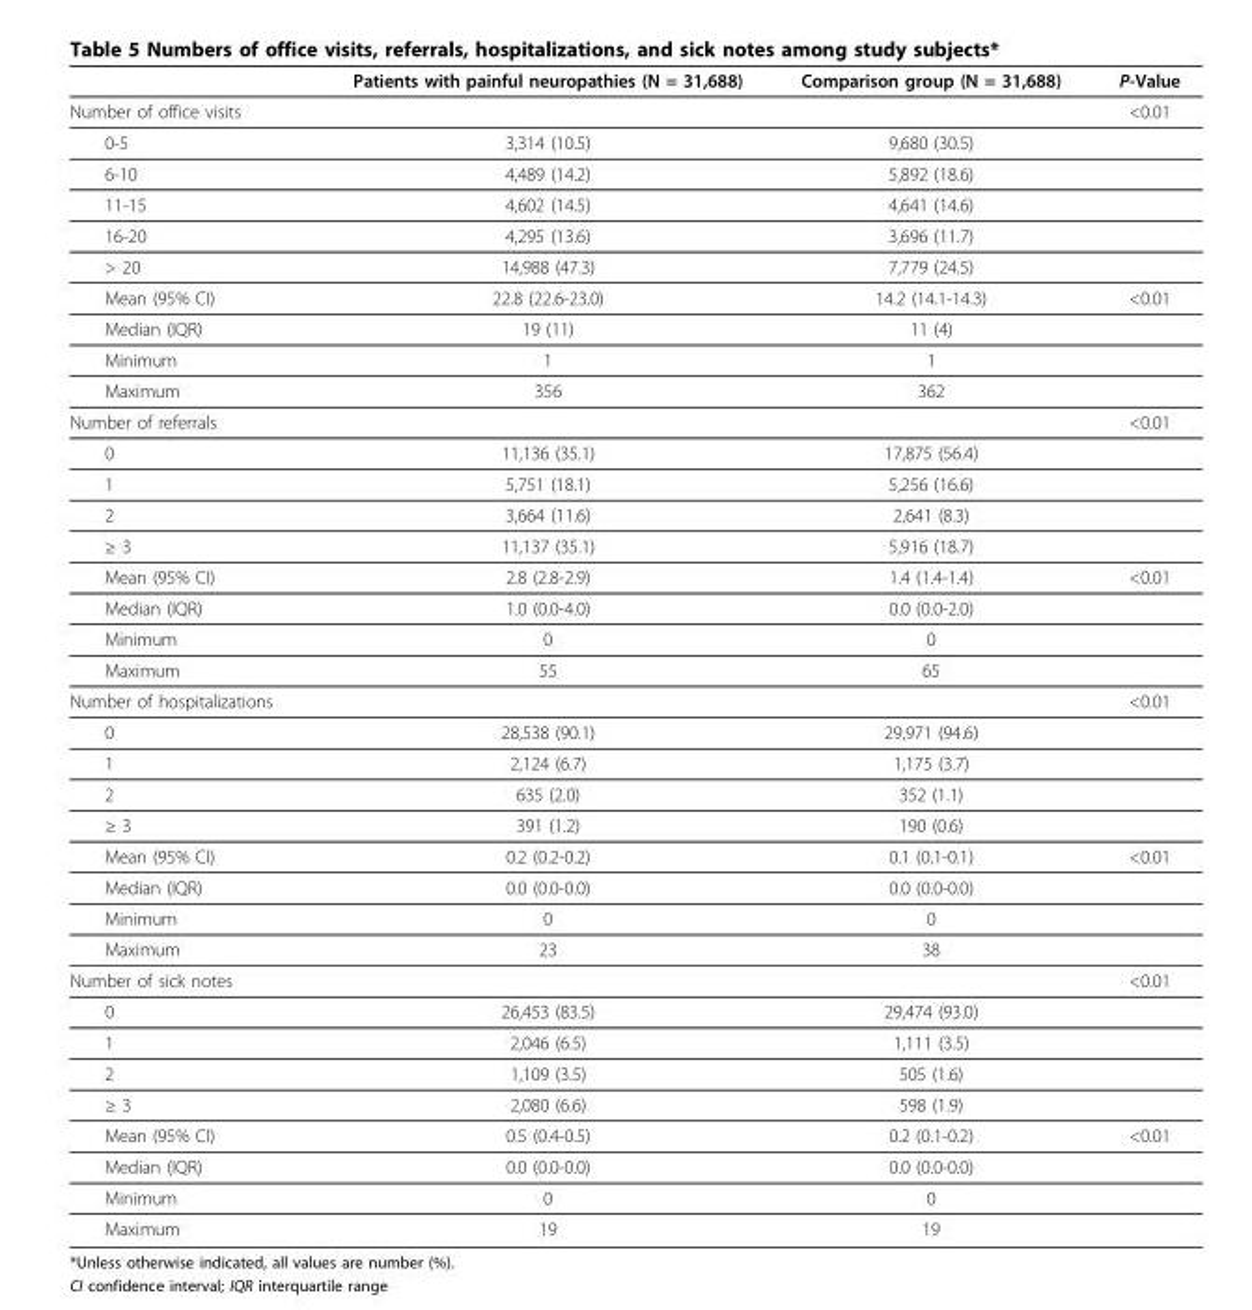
<table><thead><tr><td></td><td>Patients with painful neuropathies (N = 31,688)</td><td>Comparison group (N = 31,688)</td><td>P-Value</td></tr></thead><tbody><tr><td>Number of office visits</td><td></td><td></td><td>&lt;0.01</td></tr><tr><td>0-5</td><td>3,314 (10.5)</td><td>9,680 (30.5)</td><td></td></tr><tr><td>6-10</td><td>4,489 (14.2)</td><td>5,892 (18.6)</td><td></td></tr><tr><td>11-15</td><td>4,602 (14.5)</td><td>4,641 (14.6)</td><td></td></tr><tr><td>16-20</td><td>4,295 (13.6)</td><td>3,696 (11.7)</td><td></td></tr><tr><td>&gt; 20</td><td>14,988 (47.3)</td><td>7,779 (24.5)</td><td></td></tr><tr><td>Mean (95% CI)</td><td>22.8 (22.6-23.0)</td><td>14.2 (14.1-14.3)</td><td>&lt;0.01</td></tr><tr><td>Median (IQR)</td><td>19 (11)</td><td>11 (4)</td><td></td></tr><tr><td>Minimum</td><td>1</td><td>1</td><td></td></tr><tr><td>Maximum</td><td>356</td><td>362</td><td></td></tr><tr><td>Number of referrals</td><td></td><td></td><td>&lt;0.01</td></tr><tr><td>0</td><td>11,136 (35.1)</td><td>17,875 (56.4)</td><td></td></tr><tr><td>1</td><td>5,751 (18.1)</td><td>5,256 (16.6)</td><td></td></tr><tr><td>2</td><td>3,664 (11.6)</td><td>2,641 (8.3)</td><td></td></tr><tr><td>≥ 3</td><td>11,137 (35.1)</td><td>5,916 (18.7)</td><td></td></tr><tr><td>Mean (95% CI)</td><td>2.8 (2.8-2.9)</td><td>1.4 (1.4-1.4)</td><td>&lt;0.01</td></tr><tr><td>Median (IQR)</td><td>1.0 (0.0-4.0)</td><td>0.0 (0.0-2.0)</td><td></td></tr><tr><td>Minimum</td><td>0</td><td>0</td><td></td></tr><tr><td>Maximum</td><td>55</td><td>65</td><td></td></tr><tr><td>Number of hospitalizations</td><td></td><td></td><td>&lt;0.01</td></tr><tr><td>0</td><td>28,538 (90.1)</td><td>29,971 (94.6)</td><td></td></tr><tr><td>1</td><td>2,124 (6.7)</td><td>1,175 (3.7)</td><td></td></tr><tr><td>2</td><td>635 (2.0)</td><td>352 (1.1)</td><td></td></tr><tr><td>≥ 3</td><td>391 (1.2)</td><td>190 (0.6)</td><td></td></tr><tr><td>Mean (95% CI)</td><td>0.2 (0.2-0.2)</td><td>0.1 (0.1-0.1)</td><td>&lt;0.01</td></tr><tr><td>Median (IQR)</td><td>0.0 (0.0-0.0)</td><td>0.0 (0.0-0.0)</td><td></td></tr><tr><td>Minimum</td><td>0</td><td>0</td><td></td></tr><tr><td>Maximum</td><td>23</td><td>38</td><td></td></tr><tr><td>Number of sick notes</td><td></td><td></td><td>&lt;0.01</td></tr><tr><td>0</td><td>26,453 (83.5)</td><td>29,474 (93.0)</td><td></td></tr><tr><td>1</td><td>2,046 (6.5)</td><td>1,111 (3.5)</td><td></td></tr><tr><td>2</td><td>1,109 (3.5)</td><td>505 (1.6)</td><td></td></tr><tr><td>≥ 3</td><td>2,080 (6.6)</td><td>598 (1.9)</td><td></td></tr><tr><td>Mean (95% CI)</td><td>0.5 (0.4-0.5)</td><td>0.2 (0.1-0.2)</td><td>&lt;0.01</td></tr><tr><td>Median (IQR)</td><td>0.0 (0.0-0.0)</td><td>0.0 (0.0-0.0)</td><td></td></tr><tr><td>Minimum</td><td>0</td><td>0</td><td></td></tr><tr><td>Maximum</td><td>19</td><td>19</td><td></td></tr></tbody></table>